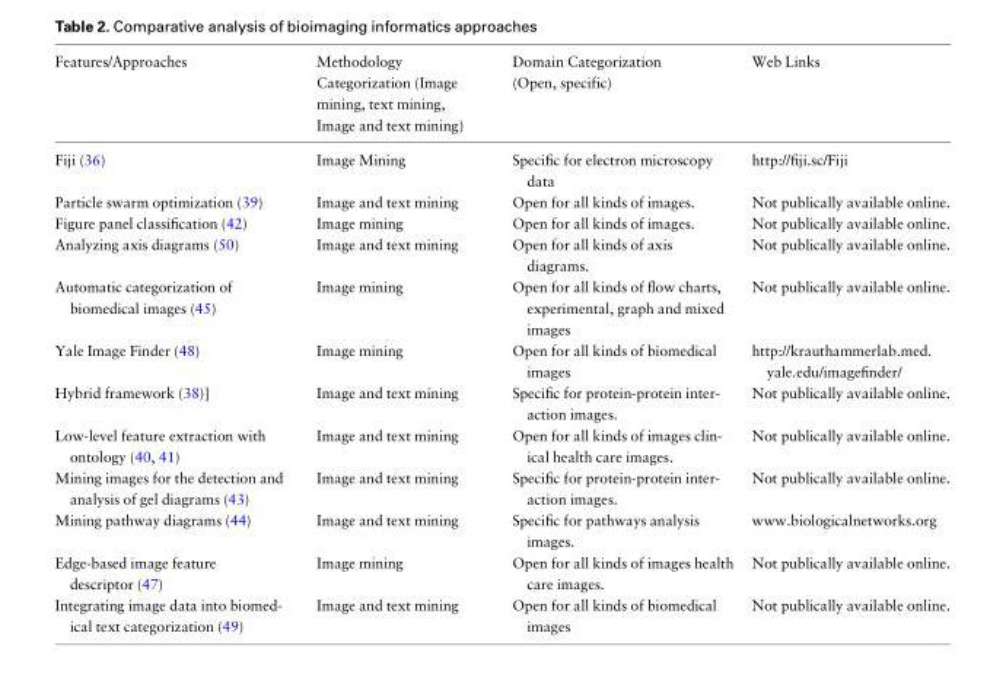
<table><thead><tr><td>Features/Approaches</td><td>Methodology Categorization (Image mining, text mining, Image and text mining)</td><td>Domain Categorization (Open, specific)</td><td>Web Links</td></tr></thead><tbody><tr><td>Fiji (36)</td><td>Image Mining</td><td>Specific for electron microscopy data</td><td>http://fiji.sc/Fiji</td></tr><tr><td>Particle swarm optimization (39)</td><td>Image and text mining</td><td>Open for all kinds of images.</td><td>Not publically available online.</td></tr><tr><td>Figure panel classification (42)</td><td>Image mining</td><td>Open for all kinds of images.</td><td>Not publically available online.</td></tr><tr><td>Analyzing axis diagrams (50)</td><td>Image and text mining</td><td>Open for all kinds of axis diagrams.</td><td>Not publically available online.</td></tr><tr><td>Automatic categorization of biomedical images (45)</td><td>Image mining</td><td>Open for all kinds of flow charts, experimental, graph and mixed images</td><td>Not publically available online.</td></tr><tr><td>Yale Image Finder (48)</td><td>Image mining</td><td>Open for all kinds of biomedical images</td><td>http://krauthammerlab.med. yale.edu/imagefinder/</td></tr><tr><td>Hybrid framework (38)]</td><td>Image and text mining</td><td>Specific for protein-protein inter- action images.</td><td>Not publically available online.</td></tr><tr><td>Low-level feature extraction with ontology (40, 41)</td><td>Image and text mining</td><td>Open for all kinds of images clin- ical health care images.</td><td>Not publically available online.</td></tr><tr><td>Mining images for the detection and analysis of gel diagrams (43)</td><td>Image and text mining</td><td>Specific for protein-protein inter- action images.</td><td>Not publically available online.</td></tr><tr><td>Mining pathway diagrams (44)</td><td>Image and text mining</td><td>Specific for pathways analysis images.</td><td>www.biologicalnetworks.org</td></tr><tr><td>Edge-based image feature descriptor (47)</td><td>Image mining</td><td>Open for all kinds of images health care images.</td><td>Not publically available online.</td></tr><tr><td>Integrating image data into biomed- ical text categorization (49)</td><td>Image and text mining</td><td>Open for all kinds of biomedical images</td><td>Not publically available online.</td></tr></tbody></table>